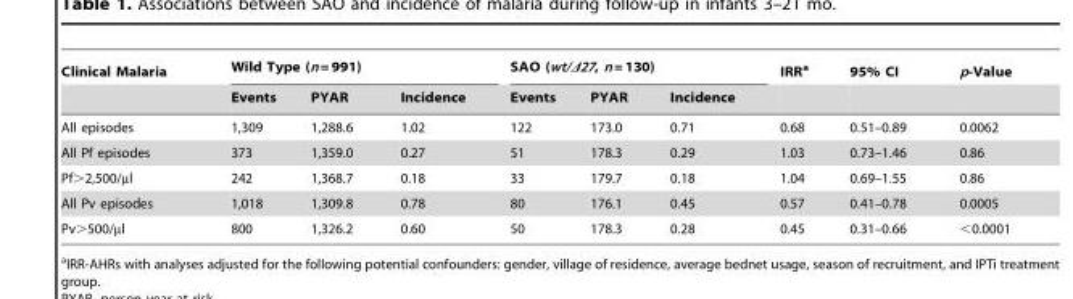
<table><thead><tr><td rowspan="2">Clinical Malaria</td><td colspan="3">Wild Type (n = 991)</td><td colspan="3">SAO (wt/Δ27, n = 130)</td><td rowspan="2">IRR<sup>a</sup></td><td rowspan="2">95% CI</td><td rowspan="2">p-Value</td></tr><tr><td>Events</td><td>PYAR</td><td>Incidence</td><td>Events</td><td>PYAR</td><td>Incidence</td></tr></thead><tbody><tr><td>All episodes</td><td>1,309</td><td>1,288.6</td><td>1.02</td><td>122</td><td>173.0</td><td>0.71</td><td>0.68</td><td>0.51–0.89</td><td>0.0062</td></tr><tr><td>All Pf episodes</td><td>373</td><td>1,359.0</td><td>0.27</td><td>51</td><td>178.3</td><td>0.29</td><td>1.03</td><td>0.73–1.46</td><td>0.86</td></tr><tr><td>Pf&gt;2,500/µl</td><td>242</td><td>1,368.7</td><td>0.18</td><td>33</td><td>179.7</td><td>0.18</td><td>1.04</td><td>0.69–1.55</td><td>0.86</td></tr><tr><td>All Pv episodes</td><td>1,018</td><td>1,309.8</td><td>0.78</td><td>80</td><td>176.1</td><td>0.45</td><td>0.57</td><td>0.41–0.78</td><td>0.0005</td></tr><tr><td>Pv&gt;500/µl</td><td>800</td><td>1,326.2</td><td>0.60</td><td>50</td><td>178.3</td><td>0.28</td><td>0.45</td><td>0.31–0.66</td><td>&lt;0.0001</td></tr></tbody></table>